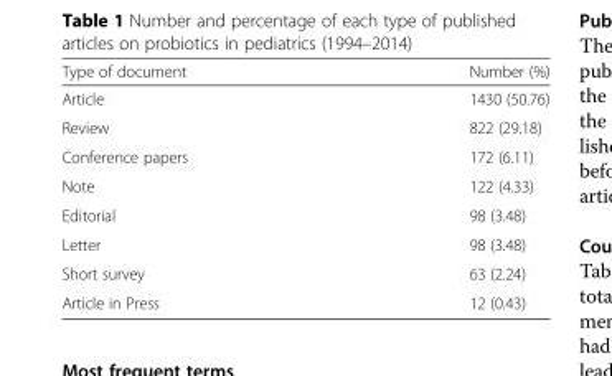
<table><thead><tr><td>Type of document</td><td>Number (%)</td></tr></thead><tbody><tr><td>Article</td><td>1430 (50.76)</td></tr><tr><td>Review</td><td>822 (29.18)</td></tr><tr><td>Conference papers</td><td>172 (6.11)</td></tr><tr><td>Note</td><td>122 (4.33)</td></tr><tr><td>Editorial</td><td>98 (3.48)</td></tr><tr><td>Letter</td><td>98 (3.48)</td></tr><tr><td>Short survey</td><td>63 (2.24)</td></tr><tr><td>Article in Press</td><td>12 (0.43)</td></tr></tbody></table>